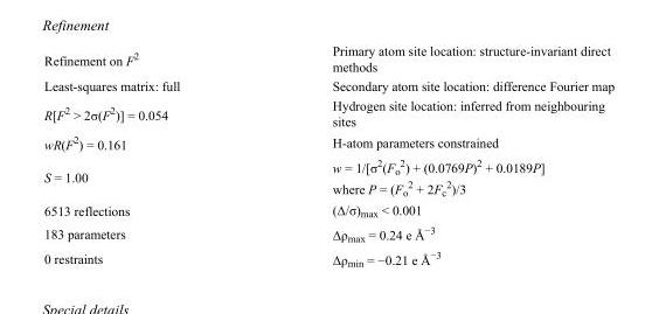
<table><tbody><tr><td>Refinement on F<sup>2</sup></td><td>Primary atom site location: structure-invariant direct methods</td></tr><tr><td>Least-squares matrix: full</td><td>Secondary atom site location: difference Fourier map</td></tr><tr><td>R[F<sup>2</sup> &gt; 2σ(F<sup>2</sup>)] = 0.054</td><td>Hydrogen site location: inferred from neighbouring sites</td></tr><tr><td>wR(F<sup>2</sup>) = 0.161</td><td>H-atom parameters constrained</td></tr><tr><td>S = 1.00</td><td>w = 1/[σ<sup>2</sup>(F<sub>o</sub> <sup>2</sup>) + (0.0769P)<sup>2</sup> + 0.0189P] where P = (F<sub>o</sub> <sup>2</sup> + 2F<sub>c</sub> <sup>2</sup>)/3</td></tr><tr><td>6513 reflections</td><td>(Δ/σ)<sub>max</sub> &lt; 0.001</td></tr><tr><td>183 parameters</td><td>Δρ<sub>max</sub> = 0.24 e Å<sup>−3</sup></td></tr><tr><td>0 restraints</td><td>Δρ<sub>min</sub> = −0.21 e Å<sup>−3</sup></td></tr></tbody></table>